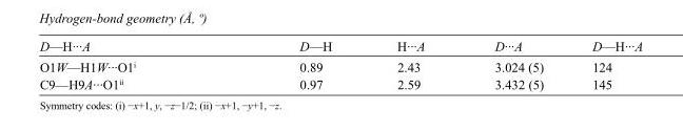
<table><tbody><tr><td>D—H···A</td><td>D—H</td><td>H···A</td><td>D···A</td><td>D—H···A</td></tr><tr><td>O1W—H1W···O1<sup>i</sup></td><td>0.89</td><td>2.43</td><td>3.024 (5)</td><td>124</td></tr><tr><td>C9—H9A···O1<sup>ii</sup></td><td>0.97</td><td>2.59</td><td>3.432 (5)</td><td>145</td></tr></tbody></table>